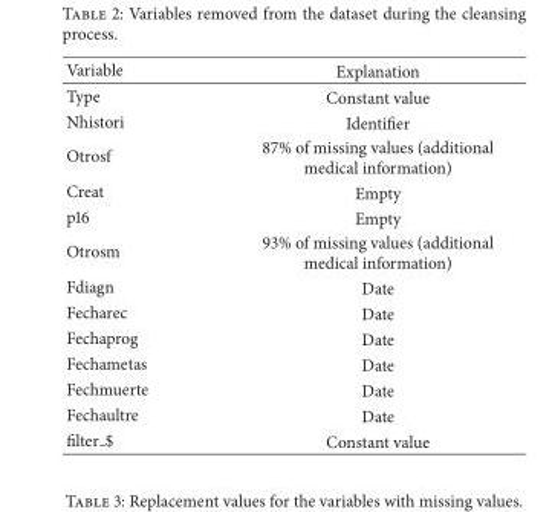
<table><thead><tr><td>Variable</td><td>Explanation</td></tr></thead><tbody><tr><td>Type</td><td>Constant value</td></tr><tr><td>Nhistori</td><td>Identifier</td></tr><tr><td>Otrosf</td><td>87% of missing values (additional medical information)</td></tr><tr><td>Creat</td><td>Empty</td></tr><tr><td>p16</td><td>Empty</td></tr><tr><td>Otrosm</td><td>93% of missing values (additional medical information)</td></tr><tr><td>Fdiagn</td><td>Date</td></tr><tr><td>Fecharec</td><td>Date</td></tr><tr><td>Fechaprog</td><td>Date</td></tr><tr><td>Fechametas</td><td>Date</td></tr><tr><td>Fechmuerte</td><td>Date</td></tr><tr><td>Fechaultre</td><td>Date</td></tr><tr><td>filter $</td><td>Constant value</td></tr></tbody></table>